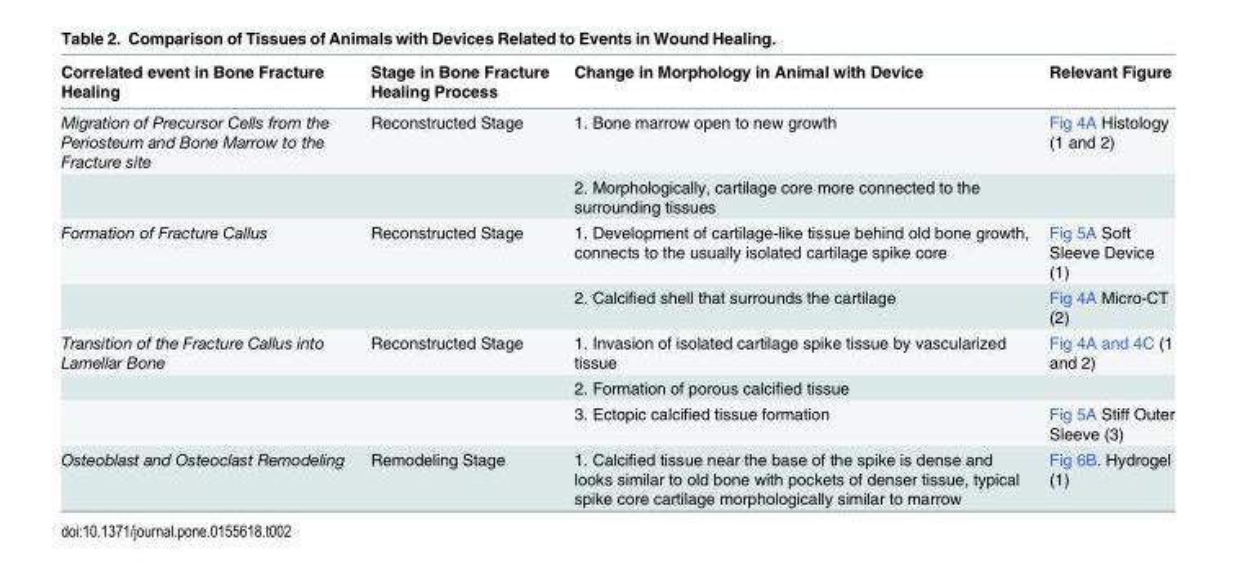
<table><thead><tr><td>Correlated event in Bone Fracture Healing</td><td>Stage in Bone Fracture Healing Process</td><td>Change in Morphology in Animal with Device</td><td>Relevant Figure</td></tr></thead><tbody><tr><td rowspan="2">Migration of Precursor Cells from the Periosteum and Bone Marrow to the Fracture site</td><td>Reconstructed Stage</td><td>1. Bone marrow open to new growth</td><td>Fig 4A Histology (1 and 2)</td></tr><tr><td></td><td>2. Morphologically, cartilage core more connected to the surrounding tissues</td><td></td></tr><tr><td rowspan="2">Formation of Fracture Callus</td><td>Reconstructed Stage</td><td>1. Development of cartilage-like tissue behind old bone growth, connects to the usually isolated cartilage spike core</td><td>Fig 5A Soft Sleeve Device (1)</td></tr><tr><td></td><td>2. Calcified shell that surrounds the cartilage</td><td>Fig 4A Micro-CT (2)</td></tr><tr><td rowspan="3">Transition of the Fracture Callus into Lamellar Bone</td><td>Reconstructed Stage</td><td>1. Invasion of isolated cartilage spike tissue by vascularized tissue</td><td>Fig 4A and 4C (1 and 2)</td></tr><tr><td></td><td>2. Formation of porous calcified tissue</td><td></td></tr><tr><td></td><td>3. Ectopic calcified tissue formation</td><td>Fig 5A Stiff Outer Sleeve (3)</td></tr><tr><td>Osteoblast and Osteoclast Remodeling</td><td>Remodeling Stage</td><td>1. Calcified tissue near the base of the spike is dense and looks similar to old bone with pockets of denser tissue, typical spike core cartilage morphologically similar to marrow</td><td>Fig 6B. Hydrogel (1)</td></tr></tbody></table>